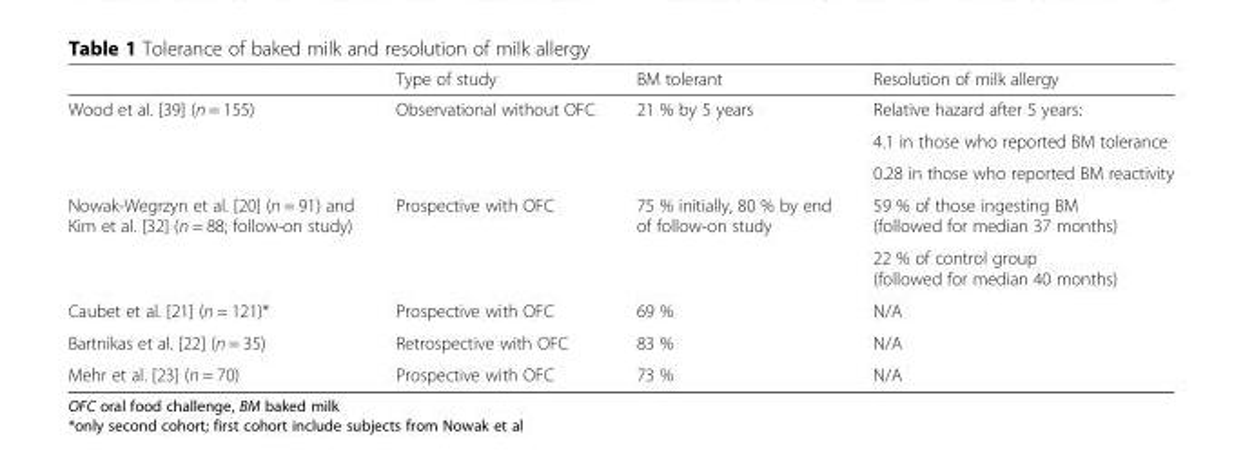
<table><thead><tr><td></td><td>Type of study</td><td>BM tolerant</td><td>Resolution of milk allergy</td></tr></thead><tbody><tr><td rowspan="3">Wood et al. [39] (n = 155)</td><td rowspan="3">Observational without OFC</td><td rowspan="3">21 % by 5 years</td><td>Relative hazard after 5 years:</td></tr><tr><td>4.1 in those who reported BM tolerance</td></tr><tr><td>0.28 in those who reported BM reactivity</td></tr><tr><td rowspan="2">Nowak-Wegrzyn et al. [20] (n = 91) and Kim et al. [32] (n = 88; follow-on study)</td><td rowspan="2">Prospective with OFC</td><td rowspan="2">75 % initially, 80 % by end of follow-on study</td><td>59 % of those ingesting BM (followed for median 37 months)</td></tr><tr><td>22 % of control group (followed for median 40 months)</td></tr><tr><td>Caubet et al. [21] (n = 121)*</td><td>Prospective with OFC</td><td>69 %</td><td>N/A</td></tr><tr><td>Bartnikas et al. [22] (n = 35)</td><td>Retrospective with OFC</td><td>83 %</td><td>N/A</td></tr><tr><td>Mehr et al. [23] (n = 70)</td><td>Prospective with OFC</td><td>73 %</td><td>N/A</td></tr></tbody></table>